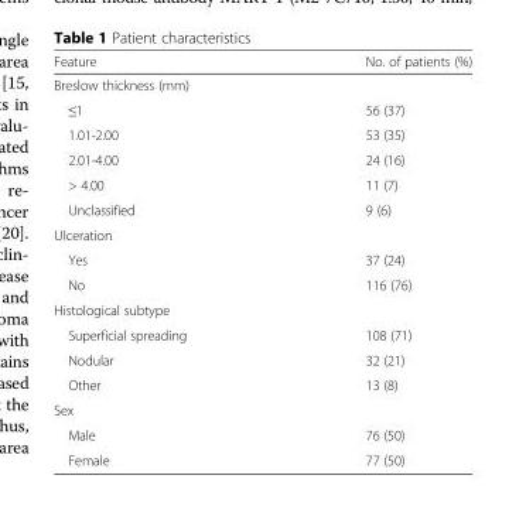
<table><thead><tr><td>Feature</td><td>No. of patients (%)</td></tr></thead><tbody><tr><td colspan="2">Breslow thickness (mm)</td></tr><tr><td>≤1</td><td>56 (37)</td></tr><tr><td>1.01-2.00</td><td>53 (35)</td></tr><tr><td>2.01-4.00</td><td>24 (16)</td></tr><tr><td>&gt; 4.00</td><td>11 (7)</td></tr><tr><td>Unclassified</td><td>9 (6)</td></tr><tr><td colspan="2">Ulceration</td></tr><tr><td>Yes</td><td>37 (24)</td></tr><tr><td>No</td><td>116 (76)</td></tr><tr><td colspan="2">Histological subtype</td></tr><tr><td>Superficial spreading</td><td>108 (71)</td></tr><tr><td>Nodular</td><td>32 (21)</td></tr><tr><td>Other</td><td>13 (8)</td></tr><tr><td colspan="2">Sex</td></tr><tr><td>Male</td><td>76 (50)</td></tr><tr><td>Female</td><td>77 (50)</td></tr></tbody></table>